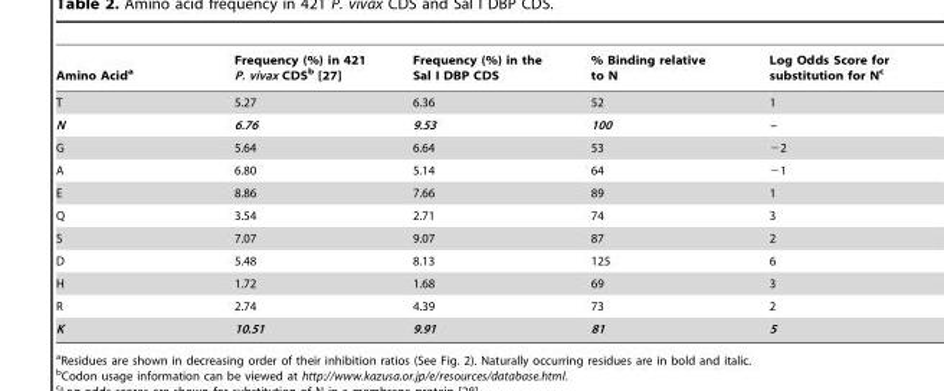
<table><thead><tr><td>Amino Acid<sup>a</sup></td><td>Frequency (%) in 421 P. vivax CDS<sup>b</sup> [27]</td><td>Frequency (%) in the Sal I DBP CDS</td><td>% Binding relative to N</td><td>Log Odds Score for substitution for N<sup>c</sup></td></tr></thead><tbody><tr><td>T</td><td>5.27</td><td>6.36</td><td>52</td><td>1</td></tr><tr><td>N</td><td>6.76</td><td>9.53</td><td>100</td><td>–</td></tr><tr><td>G</td><td>5.64</td><td>6.64</td><td>53</td><td>−2</td></tr><tr><td>A</td><td>6.80</td><td>5.14</td><td>64</td><td>−1</td></tr><tr><td>E</td><td>8.86</td><td>7.66</td><td>89</td><td>1</td></tr><tr><td>Q</td><td>3.54</td><td>2.71</td><td>74</td><td>3</td></tr><tr><td>S</td><td>7.07</td><td>9.07</td><td>87</td><td>2</td></tr><tr><td>D</td><td>5.48</td><td>8.13</td><td>125</td><td>6</td></tr><tr><td>H</td><td>1.72</td><td>1.68</td><td>69</td><td>3</td></tr><tr><td>R</td><td>2.74</td><td>4.39</td><td>73</td><td>2</td></tr><tr><td>K</td><td>10.51</td><td>9.91</td><td>81</td><td>5</td></tr></tbody></table>